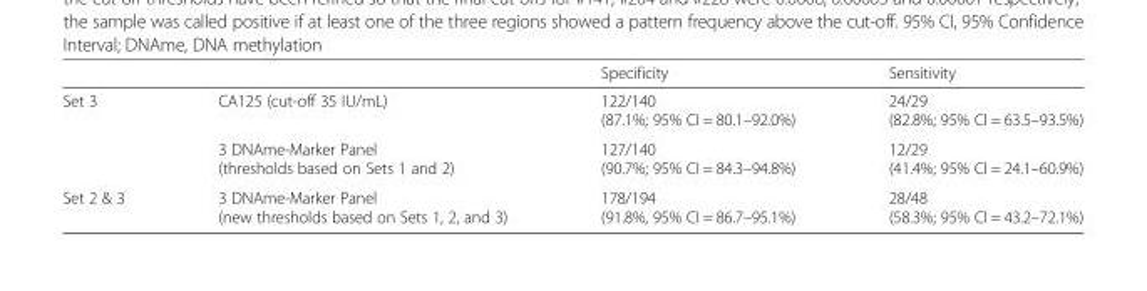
<table><thead><tr><td></td><td></td><td>Specificity</td><td>Sensitivity</td></tr></thead><tbody><tr><td rowspan="2">Set 3</td><td>CA125 (cut-off 35 IU/mL)</td><td>122/140 (87.1%; 95% CI = 80.1–92.0%)</td><td>24/29 (82.8%; 95% CI = 63.5–93.5%)</td></tr><tr><td>3 DNAme-Marker Panel (thresholds based on Sets 1 and 2)</td><td>127/140 (90.7%; 95% CI = 84.3–94.8%)</td><td>12/29 (41.4%; 95% CI = 24.1–60.9%)</td></tr><tr><td>Set 2 &amp; 3</td><td>3 DNAme-Marker Panel (new thresholds based on Sets 1, 2, and 3)</td><td>178/194 (91.8%, 95% CI = 86.7–95.1%)</td><td>28/48 (58.3%; 95% CI = 43.2–72.1%)</td></tr></tbody></table>